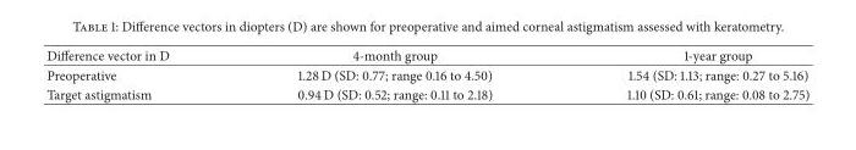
<table><thead><tr><td>Difference vector in D</td><td>4-month group</td><td>1-year group</td></tr></thead><tbody><tr><td>Preoperative</td><td>1.28 D (SD: 0.77; range 0.16 to 4.50)</td><td>1.54 (SD: 1.13; range: 0.27 to 5.16)</td></tr><tr><td>Target astigmatism</td><td>0.94 D (SD: 0.52; range: 0.11 to 2.18)</td><td>1.10 (SD: 0.61; range: 0.08 to 2.75)</td></tr></tbody></table>